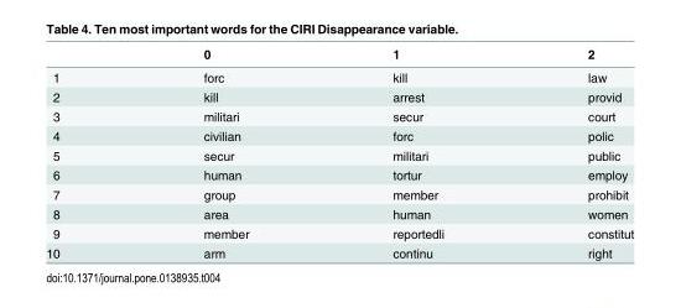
<table><thead><tr><td></td><td>0</td><td>1</td><td>2</td></tr></thead><tbody><tr><td>1</td><td>forc</td><td>kill</td><td>law</td></tr><tr><td>2</td><td>kill</td><td>arrest</td><td>provid</td></tr><tr><td>3</td><td>militari</td><td>secur</td><td>court</td></tr><tr><td>4</td><td>civilian</td><td>forc</td><td>polic</td></tr><tr><td>5</td><td>secur</td><td>militari</td><td>public</td></tr><tr><td>6</td><td>human</td><td>tortur</td><td>employ</td></tr><tr><td>7</td><td>group</td><td>member</td><td>prohibit</td></tr><tr><td>8</td><td>area</td><td>human</td><td>women</td></tr><tr><td>9</td><td>member</td><td>reportedli</td><td>constitut</td></tr><tr><td>10</td><td>arm</td><td>continu</td><td>right</td></tr></tbody></table>